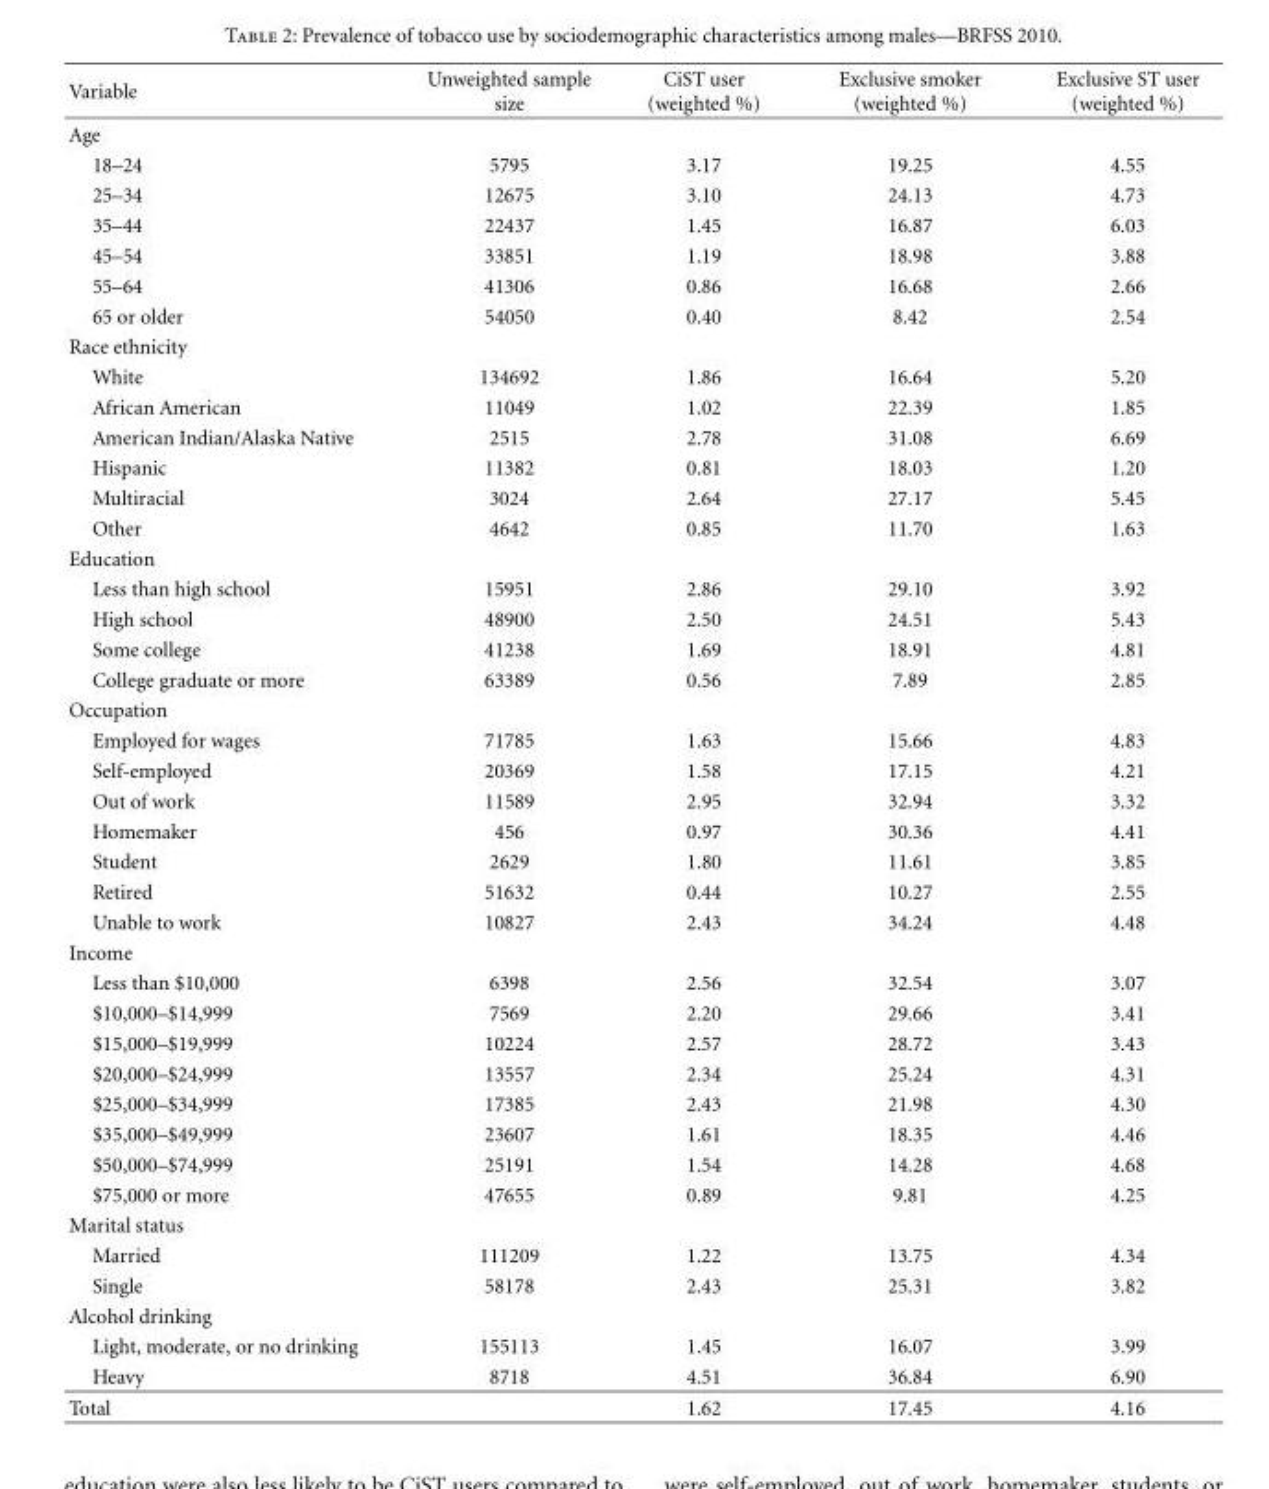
<table><thead><tr><td>Variable</td><td>Unweighted sample size</td><td>CiST user (weighted %)</td><td>Exclusive smoker (weighted %)</td><td>Exclusive ST user (weighted %)</td></tr></thead><tbody><tr><td colspan="5">Age</td></tr><tr><td>18–24</td><td>5795</td><td>3.17</td><td>19.25</td><td>4.55</td></tr><tr><td>25–34</td><td>12675</td><td>3.10</td><td>24.13</td><td>4.73</td></tr><tr><td>35–44</td><td>22437</td><td>1.45</td><td>16.87</td><td>6.03</td></tr><tr><td>45–54</td><td>33851</td><td>1.19</td><td>18.98</td><td>3.88</td></tr><tr><td>55–64</td><td>41306</td><td>0.86</td><td>16.68</td><td>2.66</td></tr><tr><td>65 or older</td><td>54050</td><td>0.40</td><td>8.42</td><td>2.54</td></tr><tr><td colspan="5">Race ethnicity</td></tr><tr><td>White</td><td>134692</td><td>1.86</td><td>16.64</td><td>5.20</td></tr><tr><td>African American</td><td>11049</td><td>1.02</td><td>22.39</td><td>1.85</td></tr><tr><td>American Indian/Alaska Native</td><td>2515</td><td>2.78</td><td>31.08</td><td>6.69</td></tr><tr><td>Hispanic</td><td>11382</td><td>0.81</td><td>18.03</td><td>1.20</td></tr><tr><td>Multiracial</td><td>3024</td><td>2.64</td><td>27.17</td><td>5.45</td></tr><tr><td>Other</td><td>4642</td><td>0.85</td><td>11.70</td><td>1.63</td></tr><tr><td colspan="5">Education</td></tr><tr><td>Less than high school</td><td>15951</td><td>2.86</td><td>29.10</td><td>3.92</td></tr><tr><td>High school</td><td>48900</td><td>2.50</td><td>24.51</td><td>5.43</td></tr><tr><td>Some college</td><td>41238</td><td>1.69</td><td>18.91</td><td>4.81</td></tr><tr><td>College graduate or more</td><td>63389</td><td>0.56</td><td>7.89</td><td>2.85</td></tr><tr><td colspan="5">Occupation</td></tr><tr><td>Employed for wages</td><td>71785</td><td>1.63</td><td>15.66</td><td>4.83</td></tr><tr><td>Self-employed</td><td>20369</td><td>1.58</td><td>17.15</td><td>4.21</td></tr><tr><td>Out of work</td><td>11589</td><td>2.95</td><td>32.94</td><td>3.32</td></tr><tr><td>Homemaker</td><td>456</td><td>0.97</td><td>30.36</td><td>4.41</td></tr><tr><td>Student</td><td>2629</td><td>1.80</td><td>11.61</td><td>3.85</td></tr><tr><td>Retired</td><td>51632</td><td>0.44</td><td>10.27</td><td>2.55</td></tr><tr><td>Unable to work</td><td>10827</td><td>2.43</td><td>34.24</td><td>4.48</td></tr><tr><td colspan="5">Income</td></tr><tr><td>Less than $10,000</td><td>6398</td><td>2.56</td><td>32.54</td><td>3.07</td></tr><tr><td>$10,000–$14,999</td><td>7569</td><td>2.20</td><td>29.66</td><td>3.41</td></tr><tr><td>$15,000–$19,999</td><td>10224</td><td>2.57</td><td>28.72</td><td>3.43</td></tr><tr><td>$20,000–$24,999</td><td>13557</td><td>2.34</td><td>25.24</td><td>4.31</td></tr><tr><td>$25,000–$34,999</td><td>17385</td><td>2.43</td><td>21.98</td><td>4.30</td></tr><tr><td>$35,000–$49,999</td><td>23607</td><td>1.61</td><td>18.35</td><td>4.46</td></tr><tr><td>$50,000–$74,999</td><td>25191</td><td>1.54</td><td>14.28</td><td>4.68</td></tr><tr><td>$75,000 or more</td><td>47655</td><td>0.89</td><td>9.81</td><td>4.25</td></tr><tr><td colspan="5">Marital status</td></tr><tr><td>Married</td><td>111209</td><td>1.22</td><td>13.75</td><td>4.34</td></tr><tr><td>Single</td><td>58178</td><td>2.43</td><td>25.31</td><td>3.82</td></tr><tr><td colspan="5">Alcohol drinking</td></tr><tr><td>Light, moderate, or no drinking</td><td>155113</td><td>1.45</td><td>16.07</td><td>3.99</td></tr><tr><td>Heavy</td><td>8718</td><td>4.51</td><td>36.84</td><td>6.90</td></tr><tr><td>Total</td><td></td><td>1.62</td><td>17.45</td><td>4.16</td></tr></tbody></table>